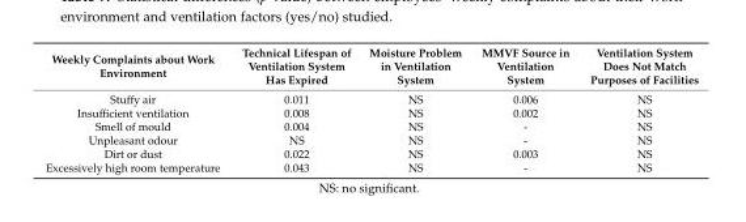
<table><thead><tr><td>Weekly Complaints about Work Environment</td><td>Technical Lifespan of Ventilation System Has Expired</td><td>Moisture Problem in Ventilation System</td><td>MMVF Source in Ventilation System</td><td>Ventilation System Does Not Match Purposes of Facilities</td></tr></thead><tbody><tr><td>Stuffy air</td><td>0.011</td><td>NS</td><td>0.006</td><td>NS</td></tr><tr><td>Insufficient ventilation</td><td>0.008</td><td>NS</td><td>0.002</td><td>NS</td></tr><tr><td>Smell of mould</td><td>0.004</td><td>NS</td><td>-</td><td>NS</td></tr><tr><td>Unpleasant odour</td><td>NS</td><td>NS</td><td>-</td><td>NS</td></tr><tr><td>Dirt or dust</td><td>0.022</td><td>NS</td><td>0.003</td><td>NS</td></tr><tr><td>Excessively high room temperature</td><td>0.043</td><td>NS</td><td>-</td><td>NS</td></tr></tbody></table>